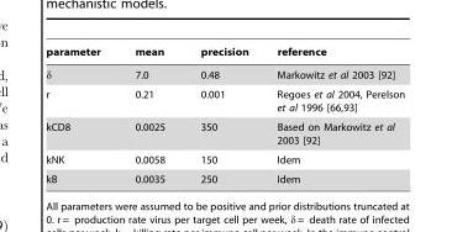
<table><thead><tr><td>parameter</td><td>mean</td><td>precision</td><td>reference</td></tr></thead><tbody><tr><td>δ</td><td>7.0</td><td>0.48</td><td>Markowitz et al 2003 [92]</td></tr><tr><td>r</td><td>0.21</td><td>0.001</td><td>Regoes et al 2004, Perelson et al 1996 [66,93]</td></tr><tr><td>kCD8</td><td>0.0025</td><td>350</td><td>Based on Markowitz et al 2003 [92]</td></tr><tr><td>kNK</td><td>0.0058</td><td>150</td><td>Idem</td></tr><tr><td>kB</td><td>0.0035</td><td>250</td><td>Idem</td></tr></tbody></table>